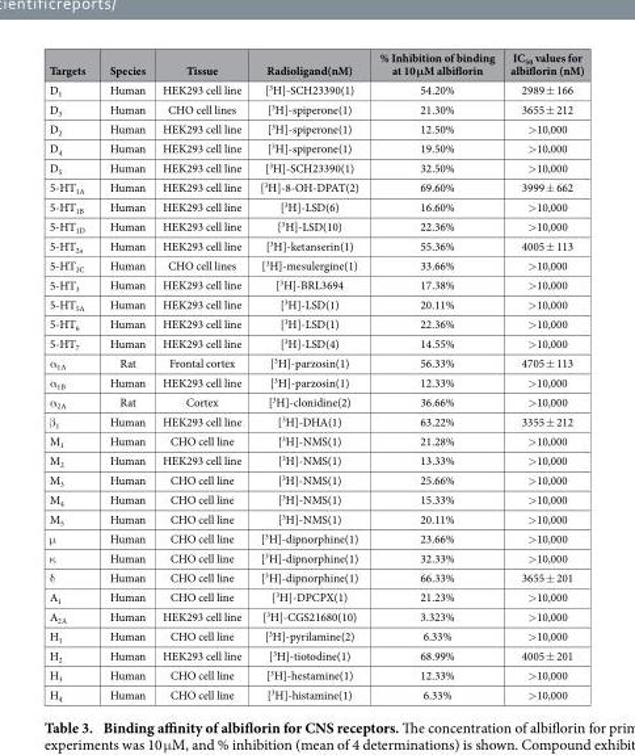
<table><thead><tr><td>Targets</td><td>Species</td><td>Tissue</td><td>Radioligand(nM)</td><td>% Inhibition of binding at 10 μM albiflorin</td><td>IC<sub>50</sub> values for albiflorin (nM)</td></tr></thead><tbody><tr><td>D<sub>1</sub></td><td>Human</td><td>HEK293 cell line</td><td>[<sup>3</sup>H]-SCH23390(1)</td><td>54.20%</td><td>2989 ± 166</td></tr><tr><td>D<sub>3</sub></td><td>Human</td><td>CHO cell lines</td><td>[<sup>3</sup>H]-spiperone(1)</td><td>21.30%</td><td>3655 ± 212</td></tr><tr><td>D<sub>2</sub></td><td>Human</td><td>HEK293 cell line</td><td>[<sup>3</sup>H]-spiperone(1)</td><td>12.50%</td><td>&gt; 10,000</td></tr><tr><td>D<sub>4</sub></td><td>Human</td><td>HEK293 cell line</td><td>[<sup>3</sup>H]-spiperone(1)</td><td>19.50%</td><td>&gt; 10,000</td></tr><tr><td>D<sub>5</sub></td><td>Human</td><td>HEK293 cell line</td><td>[<sup>3</sup>H]-SCH23390(1)</td><td>32.50%</td><td>&gt; 10,000</td></tr><tr><td>5-HT<sub>1A</sub></td><td>Human</td><td>HEK293 cell line</td><td>[<sup>3</sup>H]-8-OH-DPAT(2)</td><td>69.60%</td><td>3999 ± 662</td></tr><tr><td>5-HT<sub>1B</sub></td><td>Human</td><td>HEK293 cell line</td><td>[<sup>3</sup>H]-LSD(6)</td><td>16.60%</td><td>&gt; 10,000</td></tr><tr><td>5-HT<sub>1D</sub></td><td>Human</td><td>HEK293 cell line</td><td>[<sup>3</sup>H]-LSD(10)</td><td>22.36%</td><td>&gt; 10,000</td></tr><tr><td>5-HT<sub>2a</sub></td><td>Human</td><td>HEK293 cell line</td><td>[<sup>3</sup>H]-ketanserin(1)</td><td>55.36%</td><td>4005 ± 113</td></tr><tr><td>5-HT<sub>2C</sub></td><td>Human</td><td>CHO cell lines</td><td>[<sup>3</sup>H]-mesulergine(1)</td><td>33.66%</td><td>&gt; 10,000</td></tr><tr><td>5-HT<sub>3</sub></td><td>Human</td><td>HEK293 cell line</td><td>[<sup>3</sup>H]-BRL3694</td><td>17.38%</td><td>&gt; 10,000</td></tr><tr><td>5-HT<sub>5A</sub></td><td>Human</td><td>HEK293 cell line</td><td>[<sup>3</sup>H]-LSD(1)</td><td>20.11%</td><td>&gt; 10,000</td></tr><tr><td>5-HT<sub>6</sub></td><td>Human</td><td>HEK293 cell line</td><td>[<sup>3</sup>H]-LSD(1)</td><td>22.36%</td><td>&gt; 10,000</td></tr><tr><td>5-HT<sub>7</sub></td><td>Human</td><td>HEK293 cell line</td><td>[<sup>3</sup>H]-LSD(4)</td><td>14.55%</td><td>&gt; 10,000</td></tr><tr><td>α <sub>1A</sub></td><td>Rat</td><td>Frontal cortex</td><td>[<sup>3</sup>H]-parzosin(1)</td><td>56.33%</td><td>4705 ± 113</td></tr><tr><td>α <sub>1B</sub></td><td>Human</td><td>HEK293 cell line</td><td>[<sup>3</sup>H]-parzosin(1)</td><td>12.33%</td><td>&gt; 10,000</td></tr><tr><td>α <sub>2A</sub></td><td>Rat</td><td>Cortex</td><td>[<sup>3</sup>H]-clonidine(2)</td><td>36.66%</td><td>&gt; 10,000</td></tr><tr><td>β <sub>1</sub></td><td>Human</td><td>HEK293 cell line</td><td>[<sup>3</sup>H]-DHA(1)</td><td>63.22%</td><td>3355 ± 212</td></tr><tr><td>M<sub>1</sub></td><td>Human</td><td>CHO cell line</td><td>[<sup>3</sup>H]-NMS(1)</td><td>21.28%</td><td>&gt; 10,000</td></tr><tr><td>M<sub>2</sub></td><td>Human</td><td>HEK293 cell line</td><td>[<sup>3</sup>H]-NMS(1)</td><td>13.33%</td><td>&gt; 10,000</td></tr><tr><td>M<sub>3</sub></td><td>Human</td><td>CHO cell line</td><td>[<sup>3</sup>H]-NMS(1)</td><td>25.66%</td><td>&gt; 10,000</td></tr><tr><td>M<sub>4</sub></td><td>Human</td><td>CHO cell line</td><td>[<sup>3</sup>H]-NMS(1)</td><td>15.33%</td><td>&gt; 10,000</td></tr><tr><td>M<sub>5</sub></td><td>Human</td><td>CHO cell line</td><td>[<sup>3</sup>H]-NMS(1)</td><td>20.11%</td><td>&gt; 10,000</td></tr><tr><td>μ</td><td>Human</td><td>CHO cell line</td><td>[<sup>3</sup>H]-dipnorphine(1)</td><td>23.66%</td><td>&gt; 10,000</td></tr><tr><td>κ</td><td>Human</td><td>CHO cell line</td><td>[<sup>3</sup>H]-dipnorphine(1)</td><td>32.33%</td><td>&gt; 10,000</td></tr><tr><td>δ</td><td>Human</td><td>CHO cell line</td><td>[<sup>3</sup>H]-dipnorphine(1)</td><td>66.33%</td><td>3655 ± 201</td></tr><tr><td>A<sub>1</sub></td><td>Human</td><td>CHO cell line</td><td>[<sup>3</sup>H]-DPCPX(1)</td><td>21.23%</td><td>&gt; 10,000</td></tr><tr><td>A<sub>2A</sub></td><td>Human</td><td>HEK293 cell line</td><td>[<sup>3</sup>H]-CGS21680(10)</td><td>3.323%</td><td>&gt; 10,000</td></tr><tr><td>H<sub>1</sub></td><td>Human</td><td>CHO cell line</td><td>[<sup>3</sup>H]-pyrilamine(2)</td><td>6.33%</td><td>&gt; 10,000</td></tr><tr><td>H<sub>2</sub></td><td>Human</td><td>HEK293 cell line</td><td>[<sup>3</sup>H]-tiotodine(1)</td><td>68.99%</td><td>4005 ± 201</td></tr><tr><td>H<sub>3</sub></td><td>Human</td><td>CHO cell line</td><td>[<sup>3</sup>H]-hestamine(1)</td><td>12.33%</td><td>&gt; 10,000</td></tr><tr><td>H<sub>4</sub></td><td>Human</td><td>CHO cell line</td><td>[<sup>3</sup>H]-histamine(1)</td><td>6.33%</td><td>&gt; 10,000</td></tr></tbody></table>